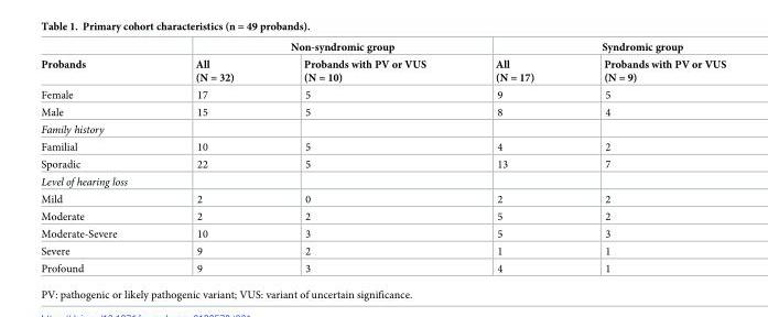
<table><thead><tr><td rowspan="2">Probands</td><td colspan="2">Non-syndromic group</td><td colspan="2">Syndromic group</td></tr><tr><td>All (N = 32)</td><td>Probands with PV or VUS (N = 10)</td><td>All (N = 17)</td><td>Probands with PV or VUS (N = 9)</td></tr></thead><tbody><tr><td>Female</td><td>17</td><td>5</td><td>9</td><td>5</td></tr><tr><td>Male</td><td>15</td><td>5</td><td>8</td><td>4</td></tr><tr><td colspan="5">Family history</td></tr><tr><td>Familial</td><td>10</td><td>5</td><td>4</td><td>2</td></tr><tr><td>Sporadic</td><td>22</td><td>5</td><td>13</td><td>7</td></tr><tr><td colspan="5">Level of hearing loss</td></tr><tr><td>Mild</td><td>2</td><td>0</td><td>2</td><td>2</td></tr><tr><td>Moderate</td><td>2</td><td>2</td><td>5</td><td>2</td></tr><tr><td>Moderate-Severe</td><td>10</td><td>3</td><td>5</td><td>3</td></tr><tr><td>Severe</td><td>9</td><td>2</td><td>1</td><td>1</td></tr><tr><td>Profound</td><td>9</td><td>3</td><td>4</td><td>1</td></tr></tbody></table>